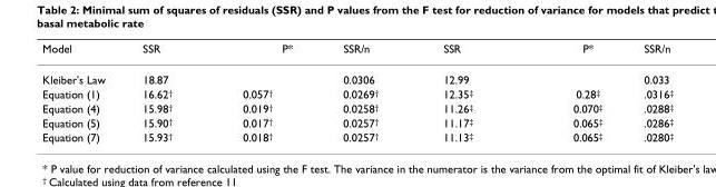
<table><thead><tr><td>Model</td><td>SSR</td><td>P*</td><td>SSR/n</td><td>SSR</td><td>P*</td><td>SSR/n</td></tr></thead><tbody><tr><td>Kleiber&#x27;s Law</td><td>18.87</td><td></td><td>0.0306</td><td>12.99</td><td></td><td>0.033</td></tr><tr><td>Equation (1)</td><td>16.62<sup>†</sup></td><td>0.057<sup>†</sup></td><td>0.0269<sup>†</sup></td><td>12.35<sup>‡</sup></td><td>0.28<sup>‡</sup></td><td>.0316<sup>‡</sup></td></tr><tr><td>Equation (4)</td><td>15.98<sup>†</sup></td><td>0.019<sup>†</sup></td><td>0.0258<sup>†</sup></td><td>11.26<sup>‡</sup></td><td>0.070<sup>‡</sup></td><td>.0288<sup>‡</sup></td></tr><tr><td>Equation (5)</td><td>15.90<sup>†</sup></td><td>0.017<sup>†</sup></td><td>0.0257<sup>†</sup></td><td>11.17<sup>‡</sup></td><td>0.065<sup>‡</sup></td><td>.0286<sup>‡</sup></td></tr><tr><td>Equation (7)</td><td>15.93<sup>†</sup></td><td>0.018<sup>†</sup></td><td>0.0257<sup>†</sup></td><td>11.13<sup>‡</sup></td><td>0.065<sup>‡</sup></td><td>.0280<sup>‡</sup></td></tr></tbody></table>